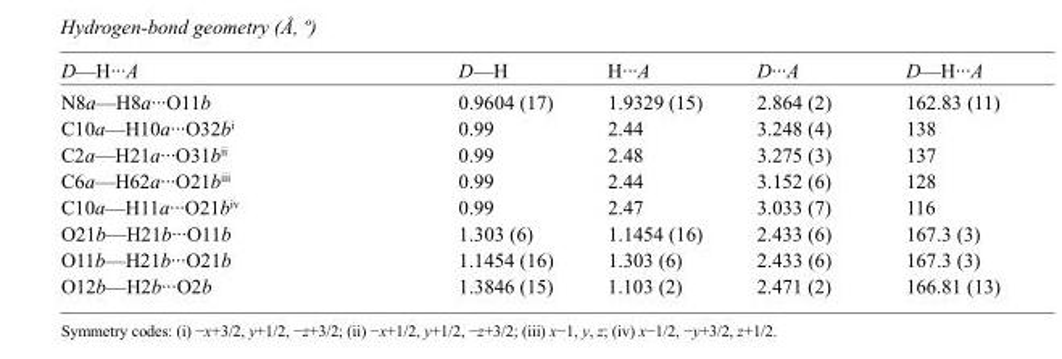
<table><tbody><tr><td>D—H···A</td><td>D—H</td><td>H···A</td><td>D···A</td><td>D—H···A</td></tr><tr><td>N8a—H8a···O11b</td><td>0.9604 (17)</td><td>1.9329 (15)</td><td>2.864 (2)</td><td>162.83 (11)</td></tr><tr><td>C10a—H10a···O32b<sup>i</sup></td><td>0.99</td><td>2.44</td><td>3.248 (4)</td><td>138</td></tr><tr><td>C2a—H21a···O31b<sup>ii</sup></td><td>0.99</td><td>2.48</td><td>3.275 (3)</td><td>137</td></tr><tr><td>C6a—H62a···O21b<sup>iii</sup></td><td>0.99</td><td>2.44</td><td>3.152 (6)</td><td>128</td></tr><tr><td>C10a—H11a···O21b<sup>iv</sup></td><td>0.99</td><td>2.47</td><td>3.033 (7)</td><td>116</td></tr><tr><td>O21b—H21b···O11b</td><td>1.303 (6)</td><td>1.1454 (16)</td><td>2.433 (6)</td><td>167.3 (3)</td></tr><tr><td>O11b—H21b···O21b</td><td>1.1454 (16)</td><td>1.303 (6)</td><td>2.433 (6)</td><td>167.3 (3)</td></tr><tr><td>O12b—H2b···O2b</td><td>1.3846 (15)</td><td>1.103 (2)</td><td>2.471 (2)</td><td>166.81 (13)</td></tr></tbody></table>